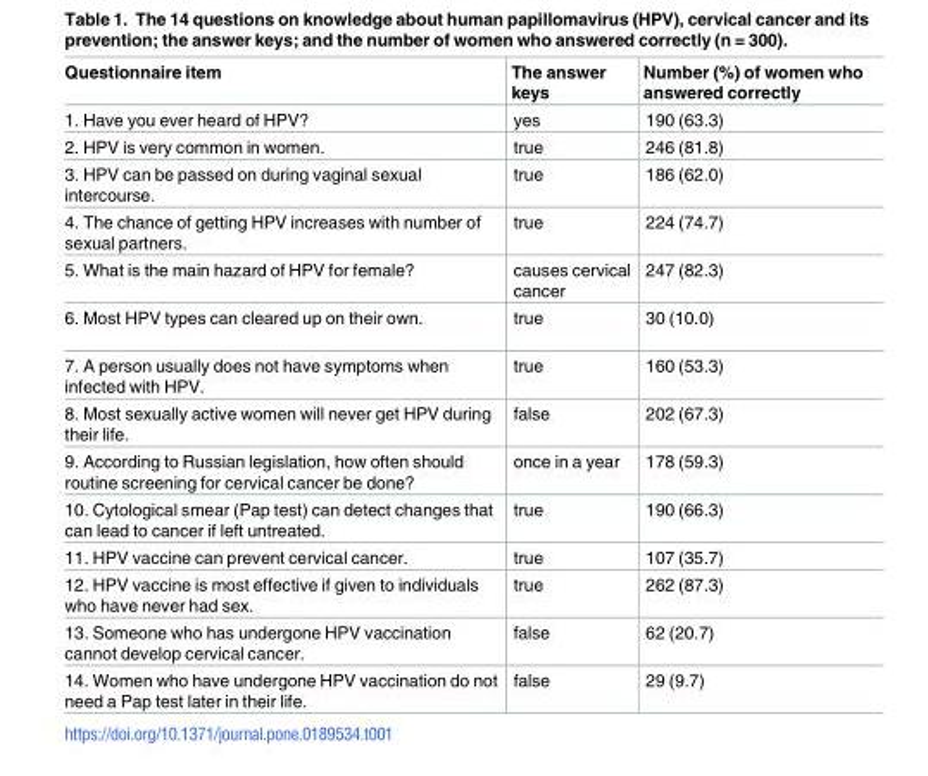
<table><thead><tr><td>Questionnaire item</td><td>The answer keys</td><td>Number (%) of women who answered correctly</td></tr></thead><tbody><tr><td>1. Have you ever heard of HPV?</td><td>yes</td><td>190 (63.3)</td></tr><tr><td>2. HPV is very common in women.</td><td>true</td><td>246 (81.8)</td></tr><tr><td>3. HPV can be passed on during vaginal sexual intercourse.</td><td>true</td><td>186 (62.0)</td></tr><tr><td>4. The chance of getting HPV increases with number of sexual partners.</td><td>true</td><td>224 (74.7)</td></tr><tr><td>5. What is the main hazard of HPV for female?</td><td>causes cervical cancer</td><td>247 (82.3)</td></tr><tr><td>6. Most HPV types can cleared up on their own.</td><td>true</td><td>30 (10.0)</td></tr><tr><td>7. A person usually does not have symptoms when infected with HPV.</td><td>true</td><td>160 (53.3)</td></tr><tr><td>8. Most sexually active women will never get HPV during their life.</td><td>false</td><td>202 (67.3)</td></tr><tr><td>9. According to Russian legislation, how often should routine screening for cervical cancer be done?</td><td>once in a year</td><td>178 (59.3)</td></tr><tr><td>10. Cytological smear (Pap test) can detect changes that can lead to cancer if left untreated.</td><td>true</td><td>190 (66.3)</td></tr><tr><td>11. HPV vaccine can prevent cervical cancer.</td><td>true</td><td>107 (35.7)</td></tr><tr><td>12. HPV vaccine is most effective if given to individuals who have never had sex.</td><td>true</td><td>262 (87.3)</td></tr><tr><td>13. Someone who has undergone HPV vaccination cannot develop cervical cancer.</td><td>false</td><td>62 (20.7)</td></tr><tr><td>14. Women who have undergone HPV vaccination do not need a Pap test later in their life.</td><td>false</td><td>29 (9.7)</td></tr></tbody></table>